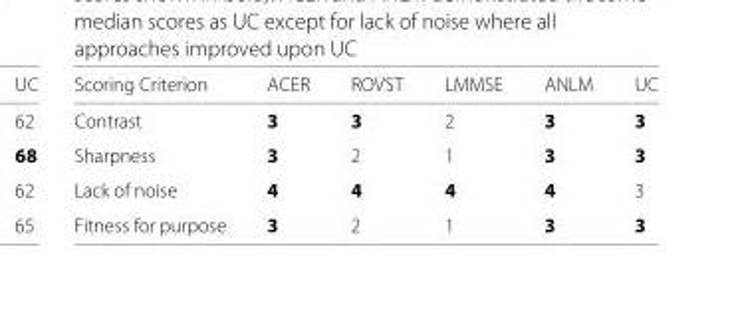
<table><thead><tr><td>Scoring Criterion</td><td>ACER</td><td>ROVST</td><td>LMMSE</td><td>ANLM</td><td>UC</td></tr></thead><tbody><tr><td>Contrast</td><td>3</td><td>3</td><td>2</td><td>3</td><td>3</td></tr><tr><td>Sharpness</td><td>3</td><td>2</td><td>1</td><td>3</td><td>3</td></tr><tr><td>Lack of noise</td><td>4</td><td>4</td><td>4</td><td>4</td><td>3</td></tr><tr><td>Fitness for purpose</td><td>3</td><td>2</td><td>1</td><td>3</td><td>3</td></tr></tbody></table>